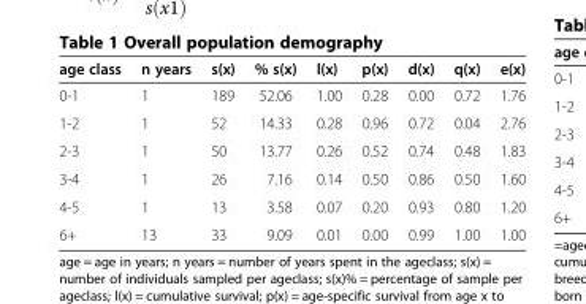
<table><thead><tr><td>age class</td><td>n years</td><td>s(x)</td><td>% s(x)</td><td>l(x)</td><td>p(x)</td><td>d(x)</td><td>q(x)</td><td>e(x)</td></tr></thead><tbody><tr><td>0-1</td><td>1</td><td>189</td><td>52.06</td><td>1.00</td><td>0.28</td><td>0.00</td><td>0.72</td><td>1.76</td></tr><tr><td>1-2</td><td>1</td><td>52</td><td>14.33</td><td>0.28</td><td>0.96</td><td>0.72</td><td>0.04</td><td>2.76</td></tr><tr><td>2-3</td><td>1</td><td>50</td><td>13.77</td><td>0.26</td><td>0.52</td><td>0.74</td><td>0.48</td><td>1.83</td></tr><tr><td>3-4</td><td>1</td><td>26</td><td>7.16</td><td>0.14</td><td>0.50</td><td>0.86</td><td>0.50</td><td>1.60</td></tr><tr><td>4-5</td><td>1</td><td>13</td><td>3.58</td><td>0.07</td><td>0.20</td><td>0.93</td><td>0.80</td><td>1.20</td></tr><tr><td>6+</td><td>13</td><td>33</td><td>9.09</td><td>0.01</td><td>0.00</td><td>0.99</td><td>1.00</td><td>1.00</td></tr></tbody></table>